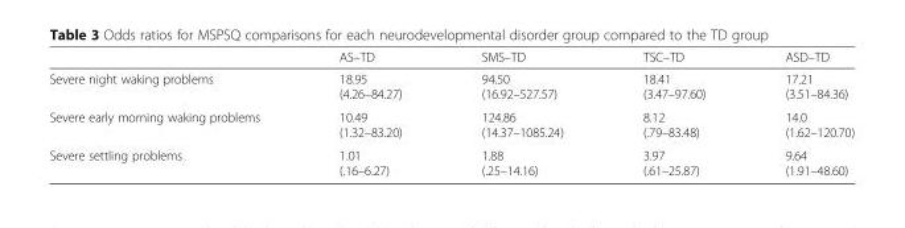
<table><thead><tr><td></td><td>AS–TD</td><td>SMS–TD</td><td>TSC–TD</td><td>ASD–TD</td></tr></thead><tbody><tr><td>Severe night waking problems</td><td>18.95 (4.26–84.27)</td><td>94.50 (16.92–527.57)</td><td>18.41 (3.47–97.60)</td><td>17.21 (3.51–84.36)</td></tr><tr><td>Severe early morning waking problems</td><td>10.49 (1.32–83.20)</td><td>124.86 (14.37–1085.24)</td><td>8.12 (.79–83.48)</td><td>14.0 (1.62–120.70)</td></tr><tr><td>Severe settling problems</td><td>1.01 (.16–6.27)</td><td>1.88 (.25–14.16)</td><td>3.97 (.61–25.87)</td><td>9.64 (1.91–48.60)</td></tr></tbody></table>